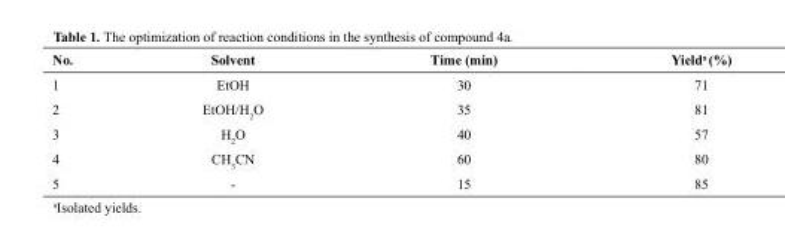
<table><thead><tr><td>No.</td><td>Solvent</td><td>Time (min)</td><td>Yield<sup>a</sup> (%)</td></tr></thead><tbody><tr><td>1</td><td>EtOH</td><td>30</td><td>71</td></tr><tr><td>2</td><td>EtOH/H<sub>2</sub>O</td><td>35</td><td>81</td></tr><tr><td>3</td><td>H<sub>2</sub>O</td><td>40</td><td>57</td></tr><tr><td>4</td><td>CH<sub>3</sub>CN</td><td>60</td><td>80</td></tr><tr><td>5</td><td>-</td><td>15</td><td>85</td></tr></tbody></table>